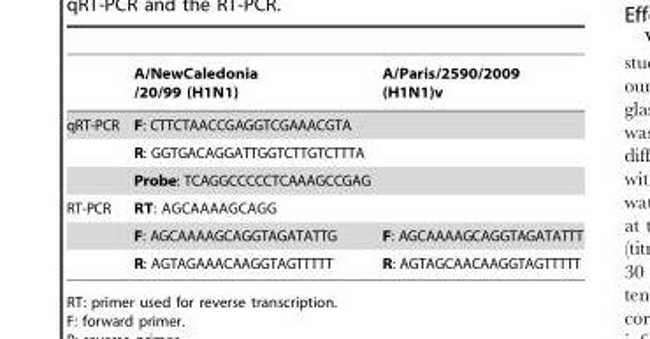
<table><thead><tr><td></td><td>A/NewCaledonia /20/99 (H1N1)</td><td>A/Paris/2590/2009 (H1N1)v</td></tr></thead><tbody><tr><td rowspan="3">qRT-PCR</td><td colspan="2">F: CTTCTAACCGAGGTCGAAACGTA</td></tr><tr><td colspan="2">R: GGTGACAGGATTGGTCTTGTCTTTA</td></tr><tr><td colspan="2">Probe: TCAGGCCCCCTCAAAGCCGAG</td></tr><tr><td rowspan="3">RT-PCR</td><td colspan="2">RT: AGCAAAAGCAGG</td></tr><tr><td>F: AGCAAAAGCAGGTAGATATTG</td><td>F: AGCAAAAGCAGGTAGATATTT</td></tr><tr><td>R: AGTAGAAACAAGGTAGTTTTT</td><td>R: AGTAGCAACAAGGTAGTTTTT</td></tr></tbody></table>